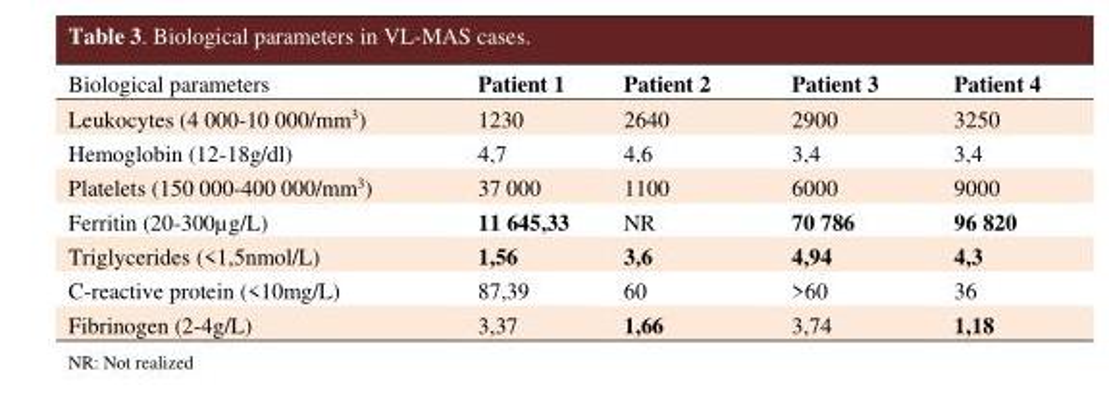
<table><thead><tr><td>Biological parameters</td><td>Patient 1</td><td>Patient 2</td><td>Patient 3</td><td>Patient 4</td></tr></thead><tbody><tr><td>Leukocytes (4 000-10 000/mm<sup>3</sup>)</td><td>1230</td><td>2640</td><td>2900</td><td>3250</td></tr><tr><td>Hemoglobin (12-18g/dl)</td><td>4,7</td><td>4,6</td><td>3,4</td><td>3,4</td></tr><tr><td>Platelets (150 000-400 000/mm<sup>3</sup>)</td><td>37 000</td><td>1100</td><td>6000</td><td>9000</td></tr><tr><td>Ferritin (20-300µg/L)</td><td>11 645,33</td><td>NR</td><td>70 786</td><td>96 820</td></tr><tr><td>Triglycerides (&lt;1,5nmol/L)</td><td>1,56</td><td>3,6</td><td>4,94</td><td>4,3</td></tr><tr><td>C-reactive protein (&lt;10mg/L)</td><td>87,39</td><td>60</td><td>&gt;60</td><td>36</td></tr><tr><td>Fibrinogen (2-4g/L)</td><td>3,37</td><td>1,66</td><td>3,74</td><td>1,18</td></tr></tbody></table>